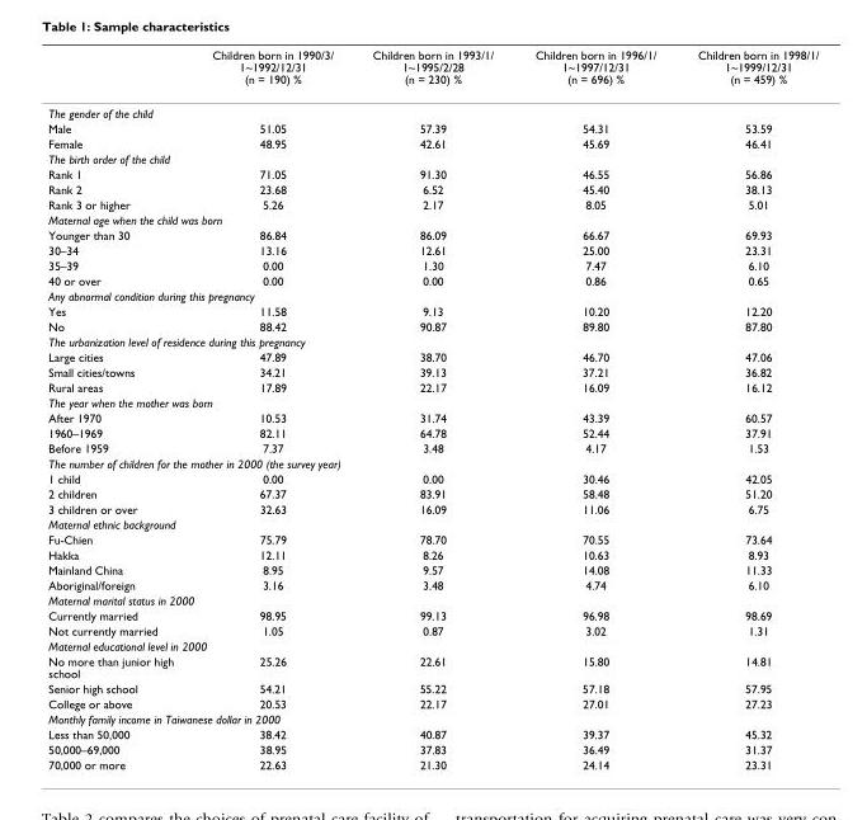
<table><thead><tr><td></td><td>Children born in 1990/3/ 1~1992/12/31 (n = 190) %</td><td>Children born in 1993/1/ 1~1995/2/28 (n = 230) %</td><td>Children born in 1996/1/ 1~1997/12/31 (n = 696) %</td><td>Children born in 1998/1/ 1~1999/12/31 (n = 459) %</td></tr></thead><tbody><tr><td colspan="5">The gender of the child</td></tr><tr><td>Male</td><td>51.05</td><td>57.39</td><td>54.31</td><td>53.59</td></tr><tr><td>Female</td><td>48.95</td><td>42.61</td><td>45.69</td><td>46.41</td></tr><tr><td colspan="5">The birth order of the child</td></tr><tr><td>Rank 1</td><td>71.05</td><td>91.30</td><td>46.55</td><td>56.86</td></tr><tr><td>Rank 2</td><td>23.68</td><td>6.52</td><td>45.40</td><td>38.13</td></tr><tr><td>Rank 3 or higher</td><td>5.26</td><td>2.17</td><td>8.05</td><td>5.01</td></tr><tr><td colspan="5">Maternal age when the child was born</td></tr><tr><td>Younger than 30</td><td>86.84</td><td>86.09</td><td>66.67</td><td>69.93</td></tr><tr><td>30–34</td><td>13.16</td><td>12.61</td><td>25.00</td><td>23.31</td></tr><tr><td>35–39</td><td>0.00</td><td>1.30</td><td>7.47</td><td>6.10</td></tr><tr><td>40 or over</td><td>0.00</td><td>0.00</td><td>0.86</td><td>0.65</td></tr><tr><td colspan="5">Any abnormal condition during this pregnancy</td></tr><tr><td>Yes</td><td>11.58</td><td>9.13</td><td>10.20</td><td>12.20</td></tr><tr><td>No</td><td>88.42</td><td>90.87</td><td>89.80</td><td>87.80</td></tr><tr><td colspan="5">The urbanization level of residence during this pregnancy</td></tr><tr><td>Large cities</td><td>47.89</td><td>38.70</td><td>46.70</td><td>47.06</td></tr><tr><td>Small cities/towns</td><td>34.21</td><td>39.13</td><td>37.21</td><td>36.82</td></tr><tr><td>Rural areas</td><td>17.89</td><td>22.17</td><td>16.09</td><td>16.12</td></tr><tr><td colspan="5">The year when the mother was born</td></tr><tr><td>After 1970</td><td>10.53</td><td>31.74</td><td>43.39</td><td>60.57</td></tr><tr><td>1960–1969</td><td>82.11</td><td>64.78</td><td>52.44</td><td>37.91</td></tr><tr><td>Before 1959</td><td>7.37</td><td>3.48</td><td>4.17</td><td>1.53</td></tr><tr><td colspan="5">The number of children for the mother in 2000 (the survey year)</td></tr><tr><td>1 child</td><td>0.00</td><td>0.00</td><td>30.46</td><td>42.05</td></tr><tr><td>2 children</td><td>67.37</td><td>83.91</td><td>58.48</td><td>51.20</td></tr><tr><td>3 children or over</td><td>32.63</td><td>16.09</td><td>11.06</td><td>6.75</td></tr><tr><td colspan="5">Maternal ethnic background</td></tr><tr><td>Fu-Chien</td><td>75.79</td><td>78.70</td><td>70.55</td><td>73.64</td></tr><tr><td>Hakka</td><td>12.11</td><td>8.26</td><td>10.63</td><td>8.93</td></tr><tr><td>Mainland China</td><td>8.95</td><td>9.57</td><td>14.08</td><td>11.33</td></tr><tr><td>Aboriginal/foreign</td><td>3.16</td><td>3.48</td><td>4.74</td><td>6.10</td></tr><tr><td colspan="5">Maternal marital status in 2000</td></tr><tr><td>Currently married</td><td>98.95</td><td>99.13</td><td>96.98</td><td>98.69</td></tr><tr><td>Not currently married</td><td>1.05</td><td>0.87</td><td>3.02</td><td>1.31</td></tr><tr><td colspan="5">Maternal educational level in 2000</td></tr><tr><td>No more than junior high school</td><td>25.26</td><td>22.61</td><td>15.80</td><td>14.81</td></tr><tr><td>Senior high school</td><td>54.21</td><td>55.22</td><td>57.18</td><td>57.95</td></tr><tr><td>College or above</td><td>20.53</td><td>22.17</td><td>27.01</td><td>27.23</td></tr><tr><td colspan="5">Monthly family income in Taiwanese dollar in 2000</td></tr><tr><td>Less than 50,000</td><td>38.42</td><td>40.87</td><td>39.37</td><td>45.32</td></tr><tr><td>50,000–69,000</td><td>38.95</td><td>37.83</td><td>36.49</td><td>31.37</td></tr><tr><td>70,000 or more</td><td>22.63</td><td>21.30</td><td>24.14</td><td>23.31</td></tr></tbody></table>